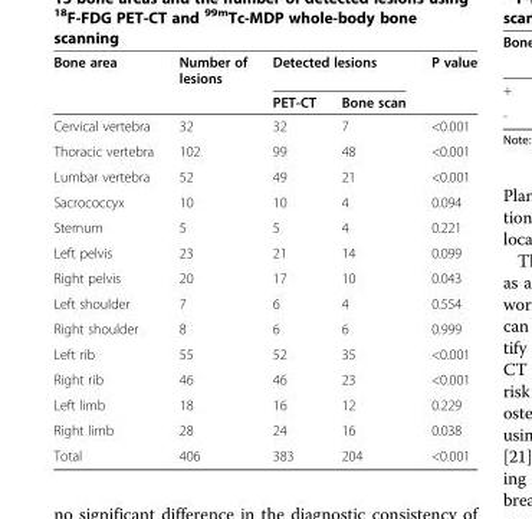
<table><thead><tr><td rowspan="2">Bone area</td><td rowspan="2">Number of lesions</td><td colspan="2">Detected lesions</td><td rowspan="2">P value</td></tr><tr><td>PET-CT</td><td>Bone scan</td></tr></thead><tbody><tr><td>Cervical vertebra</td><td>32</td><td>32</td><td>7</td><td>&lt;0.001</td></tr><tr><td>Thoracic vertebra</td><td>102</td><td>99</td><td>48</td><td>&lt;0.001</td></tr><tr><td>Lumbar vertebra</td><td>52</td><td>49</td><td>21</td><td>&lt;0.001</td></tr><tr><td>Sacrococcyx</td><td>10</td><td>10</td><td>4</td><td>0.094</td></tr><tr><td>Sternum</td><td>5</td><td>5</td><td>4</td><td>0.221</td></tr><tr><td>Left pelvis</td><td>23</td><td>21</td><td>14</td><td>0.099</td></tr><tr><td>Right pelvis</td><td>20</td><td>17</td><td>10</td><td>0.043</td></tr><tr><td>Left shoulder</td><td>7</td><td>6</td><td>4</td><td>0.554</td></tr><tr><td>Right shoulder</td><td>8</td><td>6</td><td>6</td><td>0.999</td></tr><tr><td>Left rib</td><td>55</td><td>52</td><td>35</td><td>&lt;0.001</td></tr><tr><td>Right rib</td><td>46</td><td>46</td><td>23</td><td>&lt;0.001</td></tr><tr><td>Left limb</td><td>18</td><td>16</td><td>12</td><td>0.229</td></tr><tr><td>Right limb</td><td>28</td><td>24</td><td>16</td><td>0.038</td></tr><tr><td>Total</td><td>406</td><td>383</td><td>204</td><td>&lt;0.001</td></tr></tbody></table>